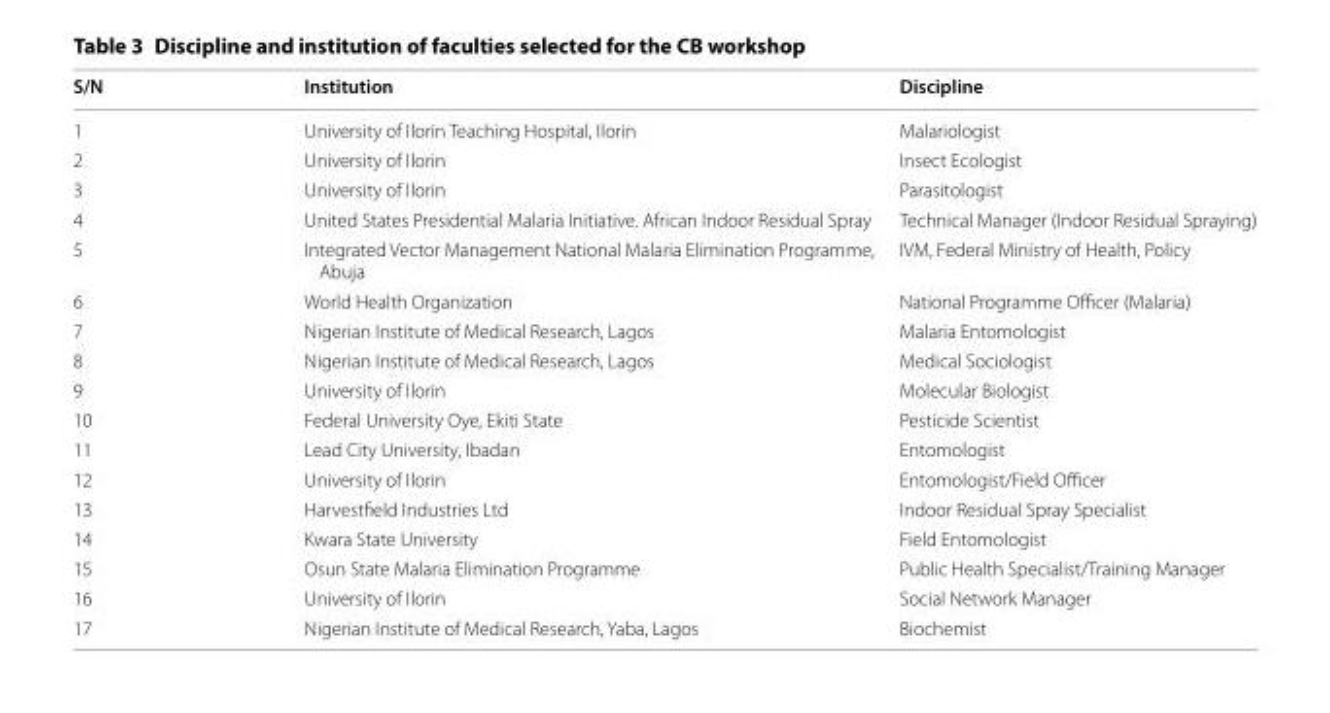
<table><thead><tr><td>S/N</td><td>Institution</td><td>Discipline</td></tr></thead><tbody><tr><td>1</td><td>University of Ilorin Teaching Hospital, Ilorin</td><td>Malariologist</td></tr><tr><td>2</td><td>University of Ilorin</td><td>Insect Ecologist</td></tr><tr><td>3</td><td>University of Ilorin</td><td>Parasitologist</td></tr><tr><td>4</td><td>United States Presidential Malaria Initiative. African Indoor Residual Spray</td><td>Technical Manager (Indoor Residual Spraying)</td></tr><tr><td>5</td><td>Integrated Vector Management National Malaria Elimination Programme, Abuja</td><td>IVM, Federal Ministry of Health, Policy</td></tr><tr><td>6</td><td>World Health Organization</td><td>National Programme Officer (Malaria)</td></tr><tr><td>7</td><td>Nigerian Institute of Medical Research, Lagos</td><td>Malaria Entomologist</td></tr><tr><td>8</td><td>Nigerian Institute of Medical Research, Lagos</td><td>Medical Sociologist</td></tr><tr><td>9</td><td>University of Ilorin</td><td>Molecular Biologist</td></tr><tr><td>10</td><td>Federal University Oye, Ekiti State</td><td>Pesticide Scientist</td></tr><tr><td>11</td><td>Lead City University, Ibadan</td><td>Entomologist</td></tr><tr><td>12</td><td>University of Ilorin</td><td>Entomologist/Field Officer</td></tr><tr><td>13</td><td>Harvestfield Industries Ltd</td><td>Indoor Residual Spray Specialist</td></tr><tr><td>14</td><td>Kwara State University</td><td>Field Entomologist</td></tr><tr><td>15</td><td>Osun State Malaria Elimination Programme</td><td>Public Health Specialist/Training Manager</td></tr><tr><td>16</td><td>University of Ilorin</td><td>Social Network Manager</td></tr><tr><td>17</td><td>Nigerian Institute of Medical Research, Yaba, Lagos</td><td>Biochemist</td></tr></tbody></table>